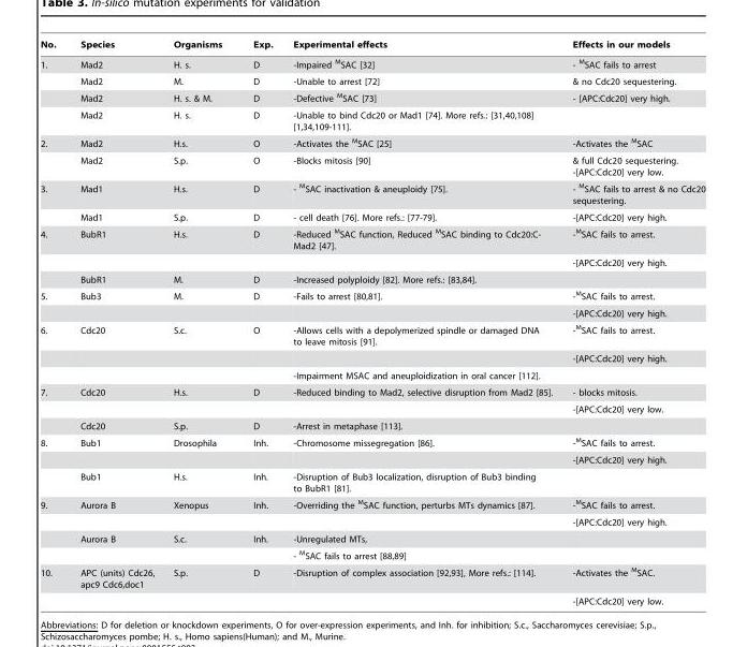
<table><thead><tr><td>No.</td><td>Species</td><td>Organisms</td><td>Exp.</td><td>Experimental effects</td><td>Effects in our models</td></tr></thead><tbody><tr><td rowspan="4">1.</td><td>Mad2</td><td>H. s.</td><td>D</td><td>-Impaired <sup>M</sup>SAC [32]</td><td>- <sup>M</sup>SAC fails to arrest</td></tr><tr><td>Mad2</td><td>M.</td><td>D</td><td>-Unable to arrest [72]</td><td>&amp; no Cdc20 sequestering.</td></tr><tr><td>Mad2</td><td>H. s. &amp; M.</td><td>D</td><td>-Defective <sup>M</sup>SAC [73]</td><td>- [APC:Cdc20] very high.</td></tr><tr><td>Mad2</td><td>H. s.</td><td>D</td><td>-Unable to bind Cdc20 or Mad1 [74]. More refs.: [31,40,108] [1,34,109-111].</td><td></td></tr><tr><td rowspan="2">2.</td><td>Mad2</td><td>H.s.</td><td>O</td><td>-Activates the <sup>M</sup>SAC [25]</td><td>-Activates the <sup>M</sup>SAC</td></tr><tr><td>Mad2</td><td>S.p.</td><td>O</td><td>-Blocks mitosis [90]</td><td>&amp; full Cdc20 sequestering. -[APC:Cdc20] very low.</td></tr><tr><td rowspan="2">3.</td><td>Mad1</td><td>H.s.</td><td>D</td><td>- <sup>M</sup>SAC inactivation &amp; aneuploidy [75].</td><td>- <sup>M</sup>SAC fails to arrest &amp; no Cdc20 sequestering.</td></tr><tr><td>Mad1</td><td>S.p.</td><td>D</td><td>- cell death [76]. More refs.: [77-79].</td><td>-[APC:Cdc20] very high.</td></tr><tr><td rowspan="3">4.</td><td>BubR1</td><td>H.s.</td><td>D</td><td>-Reduced <sup>M</sup>SAC function, Reduced <sup>M</sup>SAC binding to Cdc20:C- Mad2 [47].</td><td>-<sup>M</sup>SAC fails to arrest.</td></tr><tr><td></td><td></td><td></td><td></td><td>-[APC:Cdc20] very high.</td></tr><tr><td>BubR1</td><td>M.</td><td>D</td><td>-Increased polyploidy [82]. More refs.: [83,84].</td><td></td></tr><tr><td rowspan="2">5.</td><td>Bub3</td><td>M.</td><td>D</td><td>-Fails to arrest [80,81].</td><td>-<sup>M</sup>SAC fails to arrest.</td></tr><tr><td></td><td></td><td></td><td></td><td>-[APC:Cdc20] very high.</td></tr><tr><td rowspan="3">6.</td><td>Cdc20</td><td>S.c.</td><td>O</td><td>-Allows cells with a depolymerized spindle or damaged DNA to leave mitosis [91].</td><td>-<sup>M</sup>SAC fails to arrest.</td></tr><tr><td></td><td></td><td></td><td></td><td>-[APC:Cdc20] very high.</td></tr><tr><td></td><td></td><td></td><td>-Impairment MSAC and aneuploidization in oral cancer [112].</td><td></td></tr><tr><td rowspan="3">7.</td><td>Cdc20</td><td>H.s.</td><td>D</td><td>-Reduced binding to Mad2, selective disruption from Mad2 [85].</td><td>- blocks mitosis.</td></tr><tr><td></td><td></td><td></td><td></td><td>-[APC:Cdc20] very low.</td></tr><tr><td>Cdc20</td><td>S.p.</td><td>D</td><td>-Arrest in metaphase [113].</td><td></td></tr><tr><td rowspan="3">8.</td><td>Bub1</td><td>Drosophila</td><td>Inh.</td><td>-Chromosome missegregation [86].</td><td>-<sup>M</sup>SAC fails to arrest.</td></tr><tr><td></td><td></td><td></td><td></td><td>-[APC:Cdc20] very high.</td></tr><tr><td>Bub1</td><td>H.s.</td><td>Inh.</td><td>-Disruption of Bub3 localization, disruption of Bub3 binding to BubR1 [81].</td><td></td></tr><tr><td rowspan="4">9.</td><td>Aurora B</td><td>Xenopus</td><td>Inh.</td><td>-Overriding the <sup>M</sup>SAC function, perturbs MTs dynamics [87].</td><td>-<sup>M</sup>SAC fails to arrest.</td></tr><tr><td></td><td></td><td></td><td></td><td>-[APC:Cdc20] very high.</td></tr><tr><td>Aurora B</td><td>S.c.</td><td>Inh.</td><td>-Unregulated MTs,</td><td></td></tr><tr><td></td><td></td><td></td><td>- MSAC fails to arrest [88,89]</td><td></td></tr><tr><td rowspan="2">10.</td><td>APC (units) Cdc26, apc9 Cdc6,doc1</td><td>S.p.</td><td>D</td><td>-Disruption of complex association [92,93], More refs.: [114].</td><td>-Activates the <sup>M</sup>SAC.</td></tr><tr><td></td><td></td><td></td><td></td><td>-[APC:Cdc20] very low.</td></tr></tbody></table>